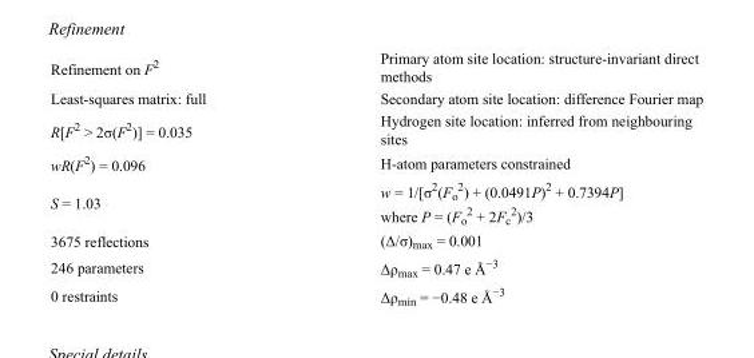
<table><tbody><tr><td>Refinement on F<sup>2</sup></td><td>Primary atom site location: structure-invariant direct methods</td></tr><tr><td>Least-squares matrix: full</td><td>Secondary atom site location: difference Fourier map</td></tr><tr><td>R[F<sup>2</sup> &gt; 2σ(F<sup>2</sup>)] = 0.035</td><td>Hydrogen site location: inferred from neighbouring sites</td></tr><tr><td>wR(F<sup>2</sup>) = 0.096</td><td>H-atom parameters constrained</td></tr><tr><td>S = 1.03</td><td>w = 1/[σ<sup>2</sup>(F<sub>o</sub> <sup>2</sup>) + (0.0491P)<sup>2</sup> + 0.7394P] where P = (F<sub>o</sub> <sup>2</sup> + 2F<sub>c</sub> <sup>2</sup>)/3</td></tr><tr><td>3675 reflections</td><td>(Δ/σ)<sub>max</sub> = 0.001</td></tr><tr><td>246 parameters</td><td>Δρ<sub>max</sub> = 0.47 e Å<sup>−3</sup></td></tr><tr><td>0 restraints</td><td>Δρ<sub>min</sub> = −0.48 e Å<sup>−3</sup></td></tr></tbody></table>